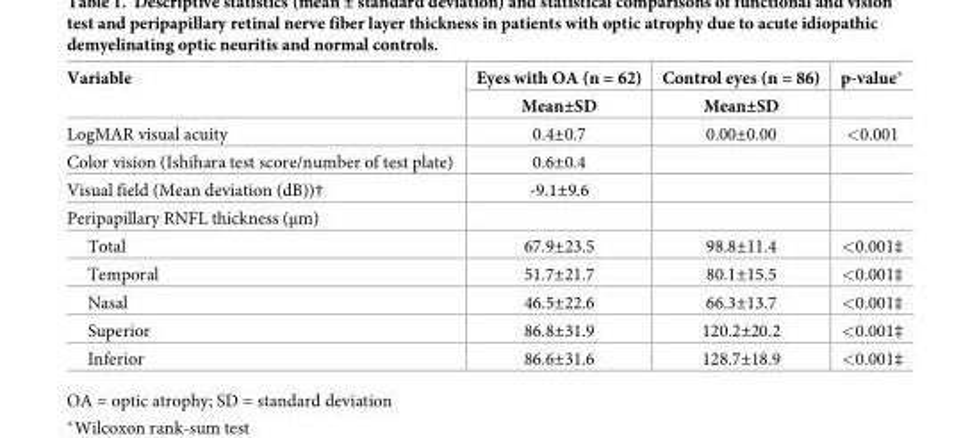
<table><thead><tr><td rowspan="2">Variable</td><td rowspan="2">Eyes with OA (n = 62) Mean±SD</td><td rowspan="2">Control eyes (n = 86) Mean±SD</td><td rowspan="2">p-value*</td></tr><tr></tr></thead><tbody><tr><td>LogMAR visual acuity</td><td>0.4±0.7</td><td>0.00±0.00</td><td>&lt;0.001</td></tr><tr><td>Color vision (Ishihara test score/number of test plate)</td><td>0.6±0.4</td><td></td><td></td></tr><tr><td>Visual field (Mean deviation (dB))†</td><td>-9.1±9.6</td><td></td><td></td></tr><tr><td colspan="4">Peripapillary RNFL thickness (μm)</td></tr><tr><td>Total</td><td>67.9±23.5</td><td>98.8±11.4</td><td>&lt;0.001‡</td></tr><tr><td>Temporal</td><td>51.7±21.7</td><td>80.1±15.5</td><td>&lt;0.001‡</td></tr><tr><td>Nasal</td><td>46.5±22.6</td><td>66.3±13.7</td><td>&lt;0.001‡</td></tr><tr><td>Superior</td><td>86.8±31.9</td><td>120.2±20.2</td><td>&lt;0.001‡</td></tr><tr><td>Inferior</td><td>86.6±31.6</td><td>128.7±18.9</td><td>&lt;0.001‡</td></tr></tbody></table>